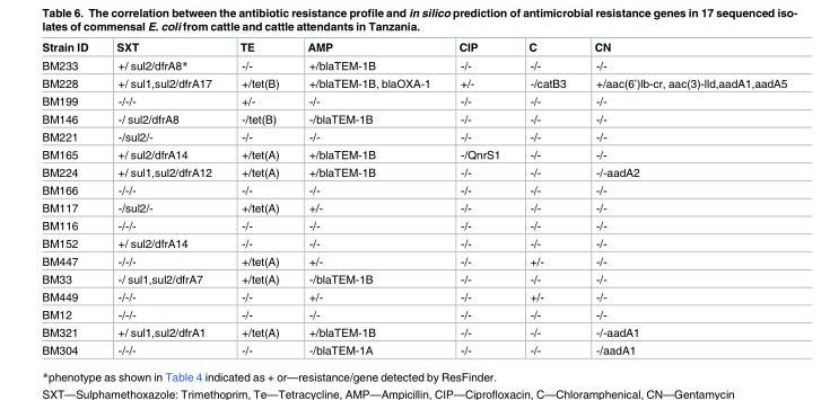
<table><thead><tr><td>Strain ID</td><td>SXT</td><td>TE</td><td>AMP</td><td>CIP</td><td>C</td><td>CN</td></tr></thead><tbody><tr><td>BM233</td><td>+/ sul2/dfrA8*</td><td>-/-</td><td>+/blaTEM-1B</td><td>-/-</td><td>-/-</td><td>-/-</td></tr><tr><td>BM228</td><td>+/ sul1,sul2/dfrA17</td><td>+/tet(B)</td><td>+/blaTEM-1B, blaOXA-1</td><td>+/-</td><td>-/catB3</td><td>+/aac(6’)lb-cr, aac(3)-lld,aadA1,aadA5</td></tr><tr><td>BM199</td><td>-/-/-</td><td>+/-</td><td>-/-</td><td>-/-</td><td>-/-</td><td>-/-</td></tr><tr><td>BM146</td><td>-/ sul2/dfrA8</td><td>-/tet(B)</td><td>-/blaTEM-1B</td><td>-/-</td><td>-/-</td><td>-/-</td></tr><tr><td>BM221</td><td>-/sul2/-</td><td>-/-</td><td>-/-</td><td>-/-</td><td>-/-</td><td>-/-</td></tr><tr><td>BM165</td><td>+/ sul2/dfrA14</td><td>+/tet(A)</td><td>+/blaTEM-1B</td><td>-/QnrS1</td><td>-/-</td><td>-/-</td></tr><tr><td>BM224</td><td>+/ sul1,sul2/dfrA12</td><td>+/tet(A)</td><td>+/blaTEM-1B</td><td>-/-</td><td>-/-</td><td>-/-aadA2</td></tr><tr><td>BM166</td><td>-/-/-</td><td>-/-</td><td>-/-</td><td>-/-</td><td>-/-</td><td>-/-</td></tr><tr><td>BM117</td><td>-/sul2/-</td><td>+/tet(A)</td><td>+/-</td><td>-/-</td><td>-/-</td><td>-/-</td></tr><tr><td>BM116</td><td>-/-/-</td><td>-/-</td><td>-/-</td><td>-/-</td><td>-/-</td><td>-/-</td></tr><tr><td>BM152</td><td>+/ sul2/dfrA14</td><td>-/-</td><td>-/-</td><td>-/-</td><td>-/-</td><td>-/-</td></tr><tr><td>BM447</td><td>-/-/-</td><td>+/tet(A)</td><td>+/-</td><td>-/-</td><td>+/-</td><td>-/-</td></tr><tr><td>BM33</td><td>-/ sul1,sul2/dfrA7</td><td>+/tet(A)</td><td>-/blaTEM-1B</td><td>-/-</td><td>-/-</td><td>-/-</td></tr><tr><td>BM449</td><td>-/-/-</td><td>-/-</td><td>+/-</td><td>-/-</td><td>+/-</td><td>-/-</td></tr><tr><td>BM12</td><td>-/-/-</td><td>-/-</td><td>-/-</td><td>-/-</td><td>-/-</td><td>-/-</td></tr><tr><td>BM321</td><td>+/ sul1,sul2/dfrA1</td><td>+/tet(A)</td><td>+/blaTEM-1B</td><td>-/-</td><td>-/-</td><td>-/-aadA1</td></tr><tr><td>BM304</td><td>-/-/-</td><td>-/-</td><td>-/blaTEM-1A</td><td>-/-</td><td>-/-</td><td>-/aadA1</td></tr></tbody></table>